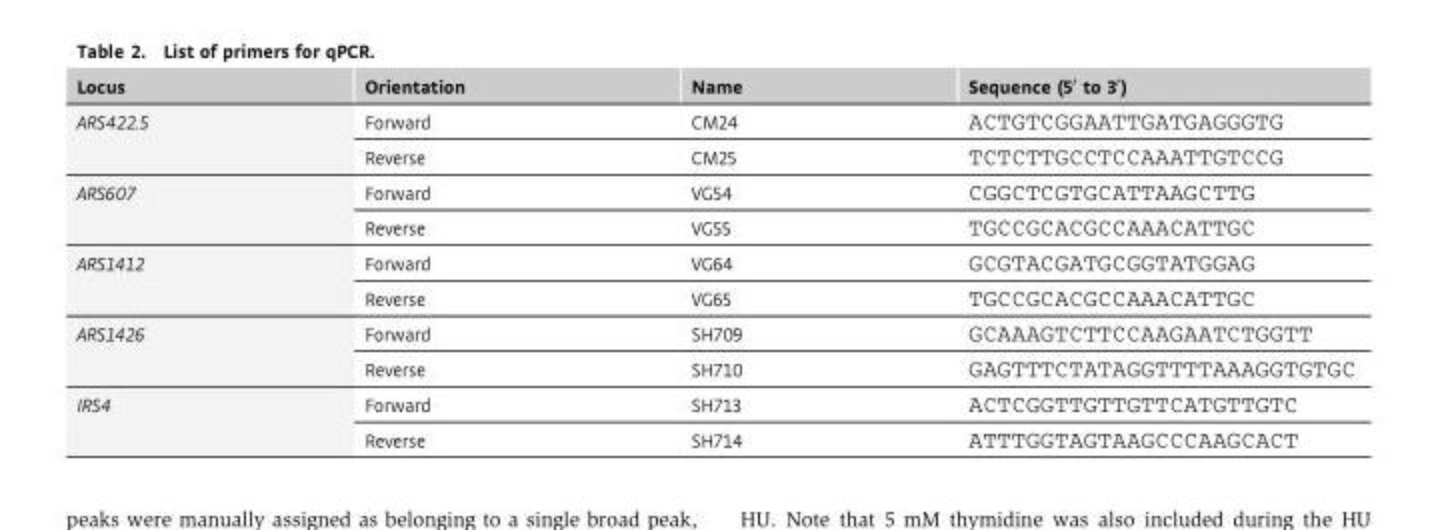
<table><thead><tr><td>Locus</td><td>Orientation</td><td>Name</td><td>Sequence (5′ to 3′)</td></tr></thead><tbody><tr><td rowspan="2">ARS422.5</td><td>Forward</td><td>CM24</td><td>ACTGTCGGAATTGATGAGGGTG</td></tr><tr><td>Reverse</td><td>CM25</td><td>TCTCTTGCCTCCAAATTGTCCG</td></tr><tr><td rowspan="2">ARS607</td><td>Forward</td><td>VG54</td><td>CGGCTCGTGCATTAAGCTTG</td></tr><tr><td>Reverse</td><td>VG55</td><td>TGCCGCACGCCAAACATTGC</td></tr><tr><td rowspan="2">ARS1412</td><td>Forward</td><td>VG64</td><td>GCGTACGATGCGGTATGGAG</td></tr><tr><td>Reverse</td><td>VG65</td><td>TGCCGCACGCCAAACATTGC</td></tr><tr><td rowspan="2">ARS1426</td><td>Forward</td><td>SH709</td><td>GCAAAGTCTTCCAAGAATCTGGTT</td></tr><tr><td>Reverse</td><td>SH710</td><td>GAGTTTCTATAGGTTTTAAAGGTGTGC</td></tr><tr><td rowspan="2">IRS4</td><td>Forward</td><td>SH713</td><td>ACTCGGTTGTTGTTCATGTTGTC</td></tr><tr><td>Reverse</td><td>SH714</td><td>ATTTGGTAGTAAGCCCAAGCACT</td></tr></tbody></table>